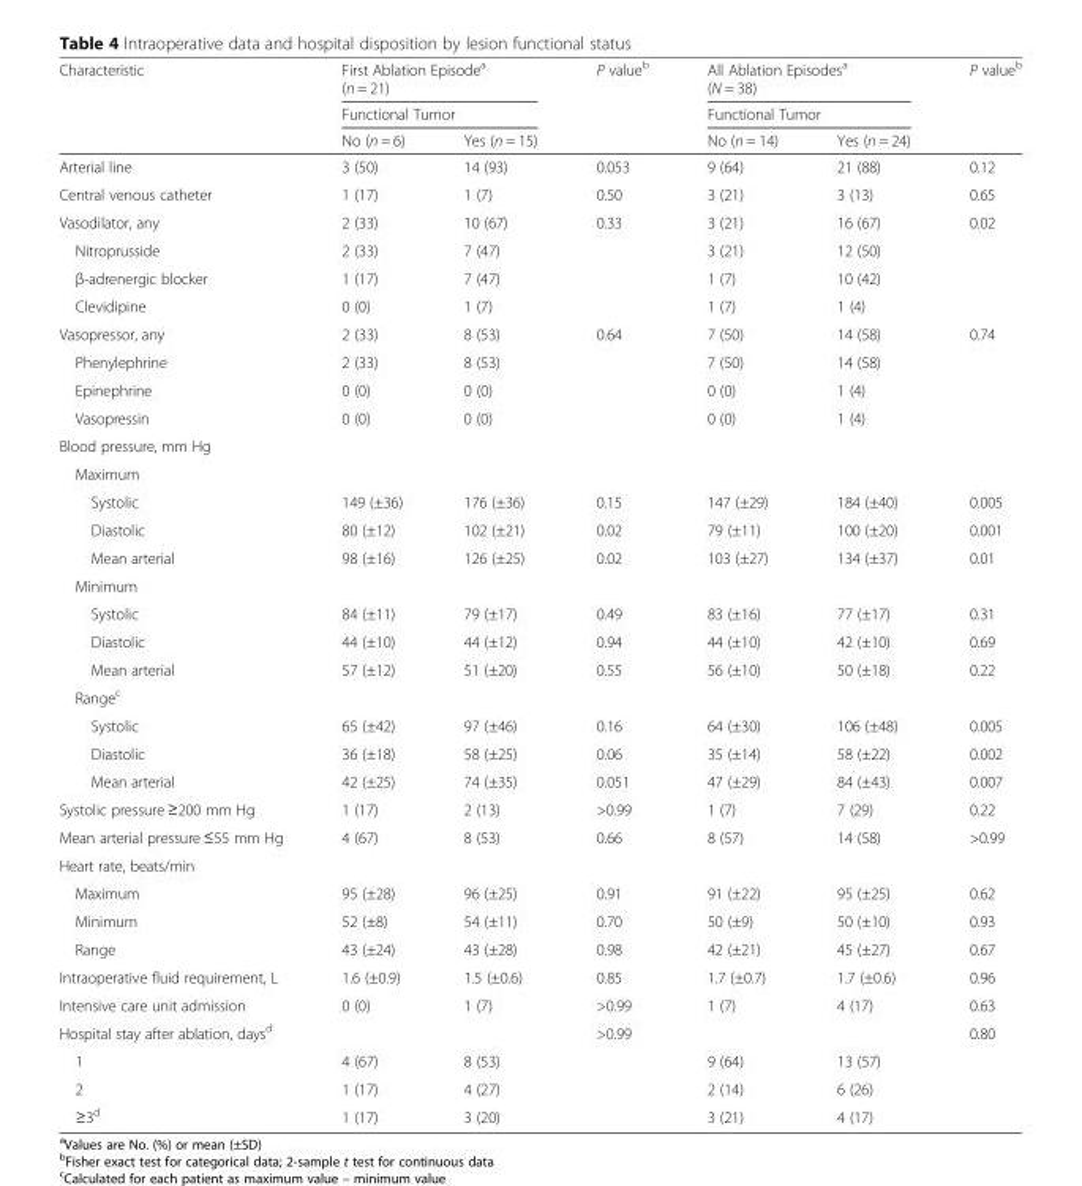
<table><thead><tr><td rowspan="3">Characteristic</td><td rowspan="2" colspan="2">First Ablation Episode<sup>a</sup> (n = 21) Functional Tumor</td><td rowspan="3">P value<sup>b</sup></td><td rowspan="2" colspan="2">All Ablation Episodes<sup>a</sup> (N = 38) Functional Tumor</td><td rowspan="3">P value<sup>b</sup></td></tr><tr></tr><tr><td>No (n = 6)</td><td>Yes (n = 15)</td><td>No (n = 14)</td><td>Yes (n = 24)</td></tr></thead><tbody><tr><td>Arterial line</td><td>3 (50)</td><td>14 (93)</td><td>0.053</td><td>9 (64)</td><td>21 (88)</td><td>0.12</td></tr><tr><td>Central venous catheter</td><td>1 (17)</td><td>1 (7)</td><td>0.50</td><td>3 (21)</td><td>3 (13)</td><td>0.65</td></tr><tr><td>Vasodilator, any</td><td>2 (33)</td><td>10 (67)</td><td>0.33</td><td>3 (21)</td><td>16 (67)</td><td rowspan="4">0.02</td></tr><tr><td>Nitroprusside</td><td>2 (33)</td><td>7 (47)</td><td></td><td>3 (21)</td><td>12 (50)</td></tr><tr><td>β-adrenergic blocker</td><td>1 (17)</td><td>7 (47)</td><td></td><td>1 (7)</td><td>10 (42)</td></tr><tr><td>Clevidipine</td><td>0 (0)</td><td>1 (7)</td><td></td><td>1 (7)</td><td>1 (4)</td></tr><tr><td>Vasopressor, any</td><td>2 (33)</td><td>8 (53)</td><td>0.64</td><td>7 (50)</td><td>14 (58)</td><td rowspan="4">0.74</td></tr><tr><td>Phenylephrine</td><td>2 (33)</td><td>8 (53)</td><td></td><td>7 (50)</td><td>14 (58)</td></tr><tr><td>Epinephrine</td><td>0 (0)</td><td>0 (0)</td><td></td><td>0 (0)</td><td>1 (4)</td></tr><tr><td>Vasopressin</td><td>0 (0)</td><td>0 (0)</td><td></td><td>0 (0)</td><td>1 (4)</td></tr><tr><td colspan="7">Blood pressure, mm Hg</td></tr><tr><td colspan="7">Maximum</td></tr><tr><td>Systolic</td><td>149 (±36)</td><td>176 (±36)</td><td>0.15</td><td>147 (±29)</td><td>184 (±40)</td><td>0.005</td></tr><tr><td>Diastolic</td><td>80 (±12)</td><td>102 (±21)</td><td>0.02</td><td>79 (±11)</td><td>100 (±20)</td><td>0.001</td></tr><tr><td>Mean arterial</td><td>98 (±16)</td><td>126 (±25)</td><td>0.02</td><td>103 (±27)</td><td>134 (±37)</td><td>0.01</td></tr><tr><td colspan="7">Minimum</td></tr><tr><td>Systolic</td><td>84 (±11)</td><td>79 (±17)</td><td>0.49</td><td>83 (±16)</td><td>77 (±17)</td><td>0.31</td></tr><tr><td>Diastolic</td><td>44 (±10)</td><td>44 (±12)</td><td>0.94</td><td>44 (±10)</td><td>42 (±10)</td><td>0.69</td></tr><tr><td>Mean arterial</td><td>57 (±12)</td><td>51 (±20)</td><td>0.55</td><td>56 (±10)</td><td>50 (±18)</td><td>0.22</td></tr><tr><td colspan="7">Range<sup>c</sup></td></tr><tr><td>Systolic</td><td>65 (±42)</td><td>97 (±46)</td><td>0.16</td><td>64 (±30)</td><td>106 (±48)</td><td>0.005</td></tr><tr><td>Diastolic</td><td>36 (±18)</td><td>58 (±25)</td><td>0.06</td><td>35 (±14)</td><td>58 (±22)</td><td>0.002</td></tr><tr><td>Mean arterial</td><td>42 (±25)</td><td>74 (±35)</td><td>0.051</td><td>47 (±29)</td><td>84 (±43)</td><td>0.007</td></tr><tr><td>Systolic pressure ≥200 mm Hg</td><td>1 (17)</td><td>2 (13)</td><td>&gt;0.99</td><td>1 (7)</td><td>7 (29)</td><td>0.22</td></tr><tr><td>Mean arterial pressure ≤55 mm Hg</td><td>4 (67)</td><td>8 (53)</td><td>0.66</td><td>8 (57)</td><td>14 (58)</td><td>&gt;0.99</td></tr><tr><td colspan="7">Heart rate, beats/min</td></tr><tr><td>Maximum</td><td>95 (±28)</td><td>96 (±25)</td><td>0.91</td><td>91 (±22)</td><td>95 (±25)</td><td>0.62</td></tr><tr><td>Minimum</td><td>52 (±8)</td><td>54 (±11)</td><td>0.70</td><td>50 (±9)</td><td>50 (±10)</td><td>0.93</td></tr><tr><td>Range</td><td>43 (±24)</td><td>43 (±28)</td><td>0.98</td><td>42 (±21)</td><td>45 (±27)</td><td>0.67</td></tr><tr><td>Intraoperative fluid requirement, L</td><td>1.6 (±0.9)</td><td>1.5 (±0.6)</td><td>0.85</td><td>1.7 (±0.7)</td><td>1.7 (±0.6)</td><td>0.96</td></tr><tr><td>Intensive care unit admission</td><td>0 (0)</td><td>1 (7)</td><td>&gt;0.99</td><td>1 (7)</td><td>4 (17)</td><td>0.63</td></tr><tr><td colspan="3">Hospital stay after ablation, days<sup>d</sup></td><td>&gt;0.99</td><td></td><td></td><td>0.80</td></tr><tr><td>1</td><td>4 (67)</td><td>8 (53)</td><td></td><td>9 (64)</td><td>13 (57)</td><td></td></tr><tr><td>2</td><td>1 (17)</td><td>4 (27)</td><td></td><td>2 (14)</td><td>6 (26)</td><td></td></tr><tr><td>≥3<sup>d</sup></td><td>1 (17)</td><td>3 (20)</td><td></td><td>3 (21)</td><td>4 (17)</td><td></td></tr></tbody></table>